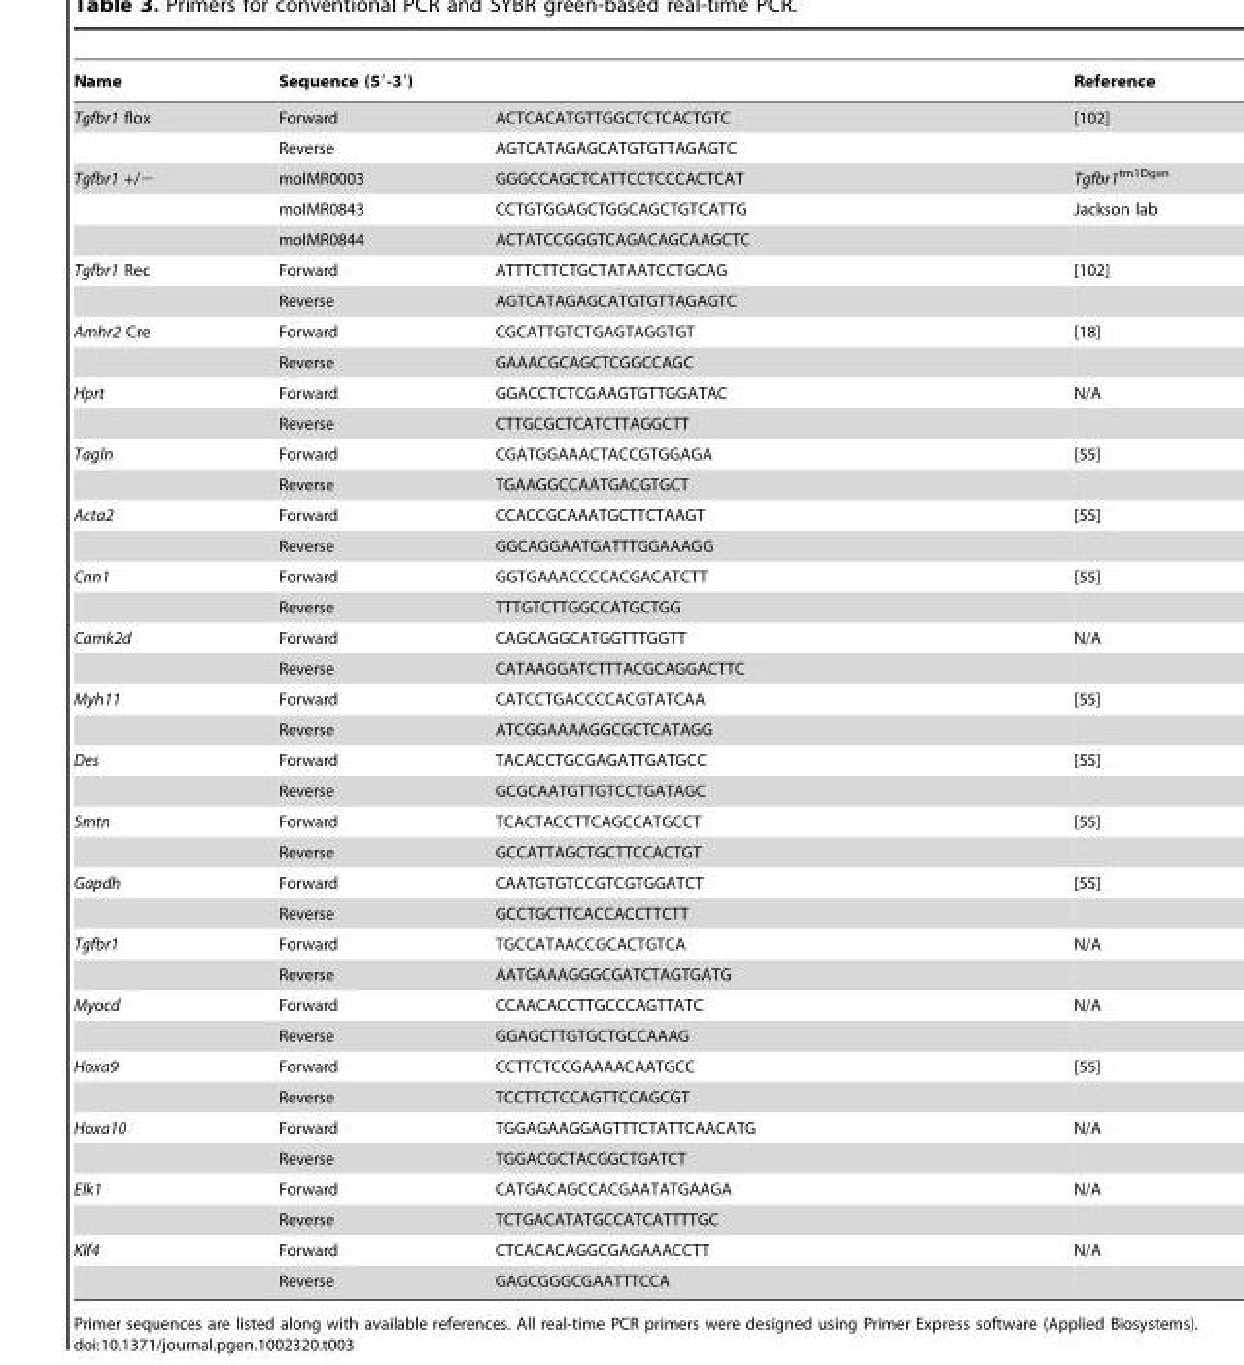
<table><thead><tr><td rowspan="2">Name Tgfbr1 flox</td><td colspan="2">Sequence (5′-3′)</td><td rowspan="2">Reference [102]</td></tr><tr><td>Forward</td><td>ACTCACATGTTGGCTCTCACTGTC</td></tr></thead><tbody><tr><td></td><td>Reverse</td><td>AGTCATAGAGCATGTGTTAGAGTC</td><td></td></tr><tr><td rowspan="3">Tgfbr1 +/−</td><td>moIMR0003</td><td>GGGCCAGCTCATTCCTCCCACTCAT</td><td>Tgfbr1<sup>tm1Dgen</sup></td></tr><tr><td>moIMR0843</td><td>CCTGTGGAGCTGGCAGCTGTCATTG</td><td>Jackson lab</td></tr><tr><td>moIMR0844</td><td>ACTATCCGGGTCAGACAGCAAGCTC</td><td></td></tr><tr><td rowspan="2">Tgfbr1 Rec</td><td>Forward</td><td>ATTTCTTCTGCTATAATCCTGCAG</td><td>[102]</td></tr><tr><td>Reverse</td><td>AGTCATAGAGCATGTGTTAGAGTC</td><td></td></tr><tr><td rowspan="2">Amhr2 Cre</td><td>Forward</td><td>CGCATTGTCTGAGTAGGTGT</td><td>[18]</td></tr><tr><td>Reverse</td><td>GAAACGCAGCTCGGCCAGC</td><td></td></tr><tr><td rowspan="2">Hprt</td><td>Forward</td><td>GGACCTCTCGAAGTGTTGGATAC</td><td>N/A</td></tr><tr><td>Reverse</td><td>CTTGCGCTCATCTTAGGCTT</td><td></td></tr><tr><td rowspan="2">Tagln</td><td>Forward</td><td>CGATGGAAACTACCGTGGAGA</td><td>[55]</td></tr><tr><td>Reverse</td><td>TGAAGGCCAATGACGTGCT</td><td></td></tr><tr><td rowspan="2">Acta2</td><td>Forward</td><td>CCACCGCAAATGCTTCTAAGT</td><td>[55]</td></tr><tr><td>Reverse</td><td>GGCAGGAATGATTTGGAAAGG</td><td></td></tr><tr><td rowspan="2">Cnn1</td><td>Forward</td><td>GGTGAAACCCCACGACATCTT</td><td>[55]</td></tr><tr><td>Reverse</td><td>TTTGTCTTGGCCATGCTGG</td><td></td></tr><tr><td rowspan="2">Camk2d</td><td>Forward</td><td>CAGCAGGCATGGTTTGGTT</td><td>N/A</td></tr><tr><td>Reverse</td><td>CATAAGGATCTTTACGCAGGACTTC</td><td></td></tr><tr><td rowspan="2">Myh11</td><td>Forward</td><td>CATCCTGACCCCACGTATCAA</td><td>[55]</td></tr><tr><td>Reverse</td><td>ATCGGAAAAGGCGCTCATAGG</td><td></td></tr><tr><td rowspan="2">Des</td><td>Forward</td><td>TACACCTGCGAGATTGATGCC</td><td>[55]</td></tr><tr><td>Reverse</td><td>GCGCAATGTTGTCCTGATAGC</td><td></td></tr><tr><td rowspan="2">Smtn</td><td>Forward</td><td>TCACTACCTTCAGCCATGCCT</td><td>[55]</td></tr><tr><td>Reverse</td><td>GCCATTAGCTGCTTCCACTGT</td><td></td></tr><tr><td rowspan="2">Gapdh</td><td>Forward</td><td>CAATGTGTCCGTCGTGGATCT</td><td>[55]</td></tr><tr><td>Reverse</td><td>GCCTGCTTCACCACCTTCTT</td><td></td></tr><tr><td rowspan="2">Tgfbr1</td><td>Forward</td><td>TGCCATAACCGCACTGTCA</td><td>N/A</td></tr><tr><td>Reverse</td><td>AATGAAAGGGCGATCTAGTGATG</td><td></td></tr><tr><td rowspan="2">Myocd</td><td>Forward</td><td>CCAACACCTTGCCCAGTTATC</td><td>N/A</td></tr><tr><td>Reverse</td><td>GGAGCTTGTGCTGCCAAAG</td><td></td></tr><tr><td rowspan="2">Hoxa9</td><td>Forward</td><td>CCTTCTCCGAAAACAATGCC</td><td>[55]</td></tr><tr><td>Reverse</td><td>TCCTTCTCCAGTTCCAGCGT</td><td></td></tr><tr><td rowspan="2">Hoxa10</td><td>Forward</td><td>TGGAGAAGGAGTTTCTATTCAACATG</td><td>N/A</td></tr><tr><td>Reverse</td><td>TGGACGCTACGGCTGATCT</td><td></td></tr><tr><td rowspan="2">Elk1</td><td>Forward</td><td>CATGACAGCCACGAATATGAAGA</td><td>N/A</td></tr><tr><td>Reverse</td><td>TCTGACATATGCCATCATTTTGC</td><td></td></tr><tr><td rowspan="2">Klf4</td><td>Forward</td><td>CTCACACAGGCGAGAAACCTT</td><td>N/A</td></tr><tr><td>Reverse</td><td>GAGCGGGCGAATTTCCA</td><td></td></tr></tbody></table>